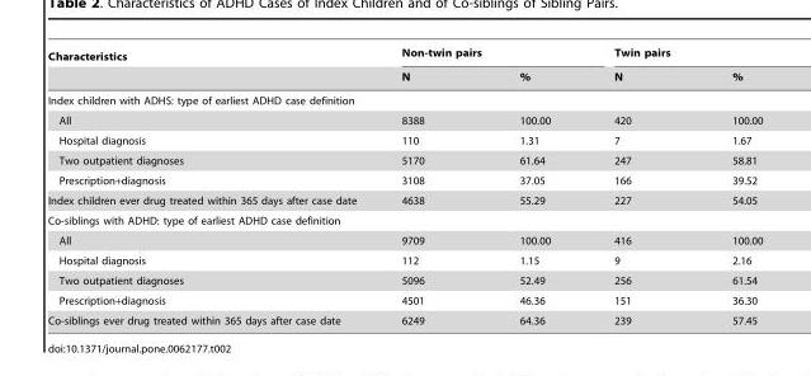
<table><thead><tr><td rowspan="2">Characteristics</td><td colspan="2">Non-twin pairs</td><td colspan="2">Twin pairs</td></tr><tr><td>N</td><td>%</td><td>N</td><td>%</td></tr></thead><tbody><tr><td colspan="5">Index children with ADHS: type of earliest ADHD case definition</td></tr><tr><td>All</td><td>8388</td><td>100.00</td><td>420</td><td>100.00</td></tr><tr><td>Hospital diagnosis</td><td>110</td><td>1.31</td><td>7</td><td>1.67</td></tr><tr><td>Two outpatient diagnoses</td><td>5170</td><td>61.64</td><td>247</td><td>58.81</td></tr><tr><td>Prescription+diagnosis</td><td>3108</td><td>37.05</td><td>166</td><td>39.52</td></tr><tr><td>Index children ever drug treated within 365 days after case date</td><td>4638</td><td>55.29</td><td>227</td><td>54.05</td></tr><tr><td colspan="5">Co-siblings with ADHD: type of earliest ADHD case definition</td></tr><tr><td>All</td><td>9709</td><td>100.00</td><td>416</td><td>100.00</td></tr><tr><td>Hospital diagnosis</td><td>112</td><td>1.15</td><td>9</td><td>2.16</td></tr><tr><td>Two outpatient diagnoses</td><td>5096</td><td>52.49</td><td>256</td><td>61.54</td></tr><tr><td>Prescription+diagnosis</td><td>4501</td><td>46.36</td><td>151</td><td>36.30</td></tr><tr><td>Co-siblings ever drug treated within 365 days after case date</td><td>6249</td><td>64.36</td><td>239</td><td>57.45</td></tr></tbody></table>